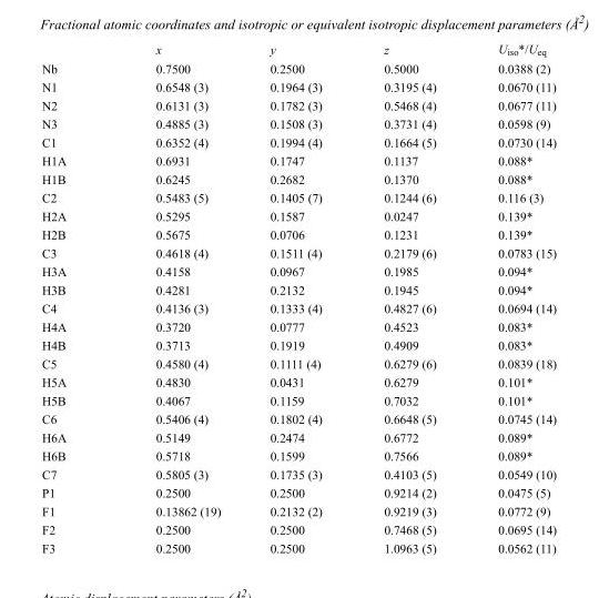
<table><thead><tr><td></td><td>x</td><td>y</td><td>z</td><td>U<sub>iso</sub>*/U<sub>eq</sub></td></tr></thead><tbody><tr><td>Nb</td><td>0.7500</td><td>0.2500</td><td>0.5000</td><td>0.0388 (2)</td></tr><tr><td>N1</td><td>0.6548 (3)</td><td>0.1964 (3)</td><td>0.3195 (4)</td><td>0.0670 (11)</td></tr><tr><td>N2</td><td>0.6131 (3)</td><td>0.1782 (3)</td><td>0.5468 (4)</td><td>0.0677 (11)</td></tr><tr><td>N3</td><td>0.4885 (3)</td><td>0.1508 (3)</td><td>0.3731 (4)</td><td>0.0598 (9)</td></tr><tr><td>C1</td><td>0.6352 (4)</td><td>0.1994 (4)</td><td>0.1664 (5)</td><td>0.0730 (14)</td></tr><tr><td>H1A</td><td>0.6931</td><td>0.1747</td><td>0.1137</td><td>0.088*</td></tr><tr><td>H1B</td><td>0.6245</td><td>0.2682</td><td>0.1370</td><td>0.088*</td></tr><tr><td>C2</td><td>0.5483 (5)</td><td>0.1405 (7)</td><td>0.1244 (6)</td><td>0.116 (3)</td></tr><tr><td>H2A</td><td>0.5295</td><td>0.1587</td><td>0.0247</td><td>0.139*</td></tr><tr><td>H2B</td><td>0.5675</td><td>0.0706</td><td>0.1231</td><td>0.139*</td></tr><tr><td>C3</td><td>0.4618 (4)</td><td>0.1511 (4)</td><td>0.2179 (6)</td><td>0.0783 (15)</td></tr><tr><td>H3A</td><td>0.4158</td><td>0.0967</td><td>0.1985</td><td>0.094*</td></tr><tr><td>H3B</td><td>0.4281</td><td>0.2132</td><td>0.1945</td><td>0.094*</td></tr><tr><td>C4</td><td>0.4136 (3)</td><td>0.1333 (4)</td><td>0.4827 (6)</td><td>0.0694 (14)</td></tr><tr><td>H4A</td><td>0.3720</td><td>0.0777</td><td>0.4523</td><td>0.083*</td></tr><tr><td>H4B</td><td>0.3713</td><td>0.1919</td><td>0.4909</td><td>0.083*</td></tr><tr><td>C5</td><td>0.4580 (4)</td><td>0.1111 (4)</td><td>0.6279 (6)</td><td>0.0839 (18)</td></tr><tr><td>H5A</td><td>0.4830</td><td>0.0431</td><td>0.6279</td><td>0.101*</td></tr><tr><td>H5B</td><td>0.4067</td><td>0.1159</td><td>0.7032</td><td>0.101*</td></tr><tr><td>C6</td><td>0.5406 (4)</td><td>0.1802 (4)</td><td>0.6648 (5)</td><td>0.0745 (14)</td></tr><tr><td>H6A</td><td>0.5149</td><td>0.2474</td><td>0.6772</td><td>0.089*</td></tr><tr><td>H6B</td><td>0.5718</td><td>0.1599</td><td>0.7566</td><td>0.089*</td></tr><tr><td>C7</td><td>0.5805 (3)</td><td>0.1735 (3)</td><td>0.4103 (5)</td><td>0.0549 (10)</td></tr><tr><td>P1</td><td>0.2500</td><td>0.2500</td><td>0.9214 (2)</td><td>0.0475 (5)</td></tr><tr><td>F1</td><td>0.13862 (19)</td><td>0.2132 (2)</td><td>0.9219 (3)</td><td>0.0772 (9)</td></tr><tr><td>F2</td><td>0.2500</td><td>0.2500</td><td>0.7468 (5)</td><td>0.0695 (14)</td></tr><tr><td>F3</td><td>0.2500</td><td>0.2500</td><td>1.0963 (5)</td><td>0.0562 (11)</td></tr></tbody></table>